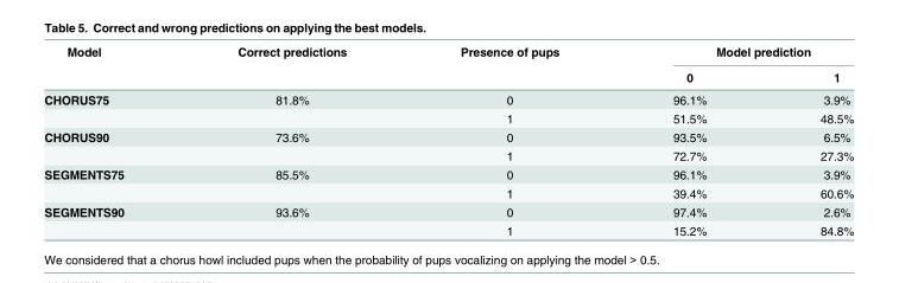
<table><thead><tr><td rowspan="2">Model</td><td rowspan="2">Correct predictions</td><td rowspan="2">Presence of pups</td><td colspan="2">Model prediction</td></tr><tr><td>0</td><td>1</td></tr></thead><tbody><tr><td rowspan="2">CHORUS75</td><td>81.8%</td><td>0</td><td>96.1%</td><td>3.9%</td></tr><tr><td></td><td>1</td><td>51.5%</td><td>48.5%</td></tr><tr><td rowspan="2">CHORUS90</td><td>73.6%</td><td>0</td><td>93.5%</td><td>6.5%</td></tr><tr><td></td><td>1</td><td>72.7%</td><td>27.3%</td></tr><tr><td rowspan="2">SEGMENTS75</td><td>85.5%</td><td>0</td><td>96.1%</td><td>3.9%</td></tr><tr><td></td><td>1</td><td>39.4%</td><td>60.6%</td></tr><tr><td rowspan="2">SEGMENTS90</td><td>93.6%</td><td>0</td><td>97.4%</td><td>2.6%</td></tr><tr><td></td><td>1</td><td>15.2%</td><td>84.8%</td></tr></tbody></table>